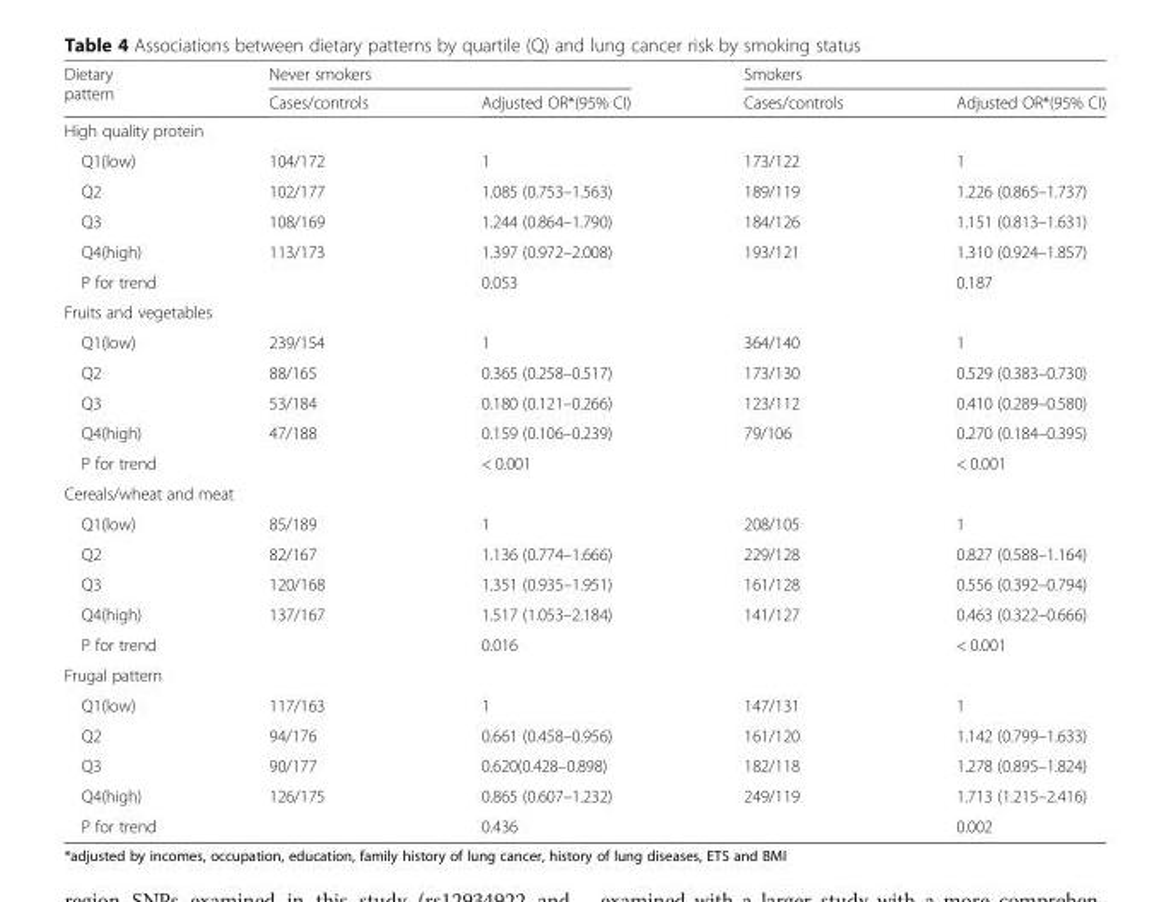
<table><thead><tr><td rowspan="2">Dietary pattern</td><td colspan="2">Never smokers</td><td colspan="2">Smokers</td></tr><tr><td>Cases/controls</td><td>Adjusted OR*(95% CI)</td><td>Cases/controls</td><td>Adjusted OR*(95% CI)</td></tr></thead><tbody><tr><td colspan="5">High quality protein</td></tr><tr><td>Q1(low)</td><td>104/172</td><td>1</td><td>173/122</td><td>1</td></tr><tr><td>Q2</td><td>102/177</td><td>1.085 (0.753–1.563)</td><td>189/119</td><td>1.226 (0.865–1.737)</td></tr><tr><td>Q3</td><td>108/169</td><td>1.244 (0.864–1.790)</td><td>184/126</td><td>1.151 (0.813–1.631)</td></tr><tr><td>Q4(high)</td><td>113/173</td><td>1.397 (0.972–2.008)</td><td>193/121</td><td>1.310 (0.924–1.857)</td></tr><tr><td>P for trend</td><td></td><td>0.053</td><td></td><td>0.187</td></tr><tr><td colspan="5">Fruits and vegetables</td></tr><tr><td>Q1(low)</td><td>239/154</td><td>1</td><td>364/140</td><td>1</td></tr><tr><td>Q2</td><td>88/165</td><td>0.365 (0.258–0.517)</td><td>173/130</td><td>0.529 (0.383–0.730)</td></tr><tr><td>Q3</td><td>53/184</td><td>0.180 (0.121–0.266)</td><td>123/112</td><td>0.410 (0.289–0.580)</td></tr><tr><td>Q4(high)</td><td>47/188</td><td>0.159 (0.106–0.239)</td><td>79/106</td><td>0.270 (0.184–0.395)</td></tr><tr><td>P for trend</td><td></td><td>&lt; 0.001</td><td></td><td>&lt; 0.001</td></tr><tr><td colspan="5">Cereals/wheat and meat</td></tr><tr><td>Q1(low)</td><td>85/189</td><td>1</td><td>208/105</td><td>1</td></tr><tr><td>Q2</td><td>82/167</td><td>1.136 (0.774–1.666)</td><td>229/128</td><td>0.827 (0.588–1.164)</td></tr><tr><td>Q3</td><td>120/168</td><td>1.351 (0.935–1.951)</td><td>161/128</td><td>0.556 (0.392–0.794)</td></tr><tr><td>Q4(high)</td><td>137/167</td><td>1.517 (1.053–2.184)</td><td>141/127</td><td>0.463 (0.322–0.666)</td></tr><tr><td>P for trend</td><td></td><td>0.016</td><td></td><td>&lt; 0.001</td></tr><tr><td colspan="5">Frugal pattern</td></tr><tr><td>Q1(low)</td><td>117/163</td><td>1</td><td>147/131</td><td>1</td></tr><tr><td>Q2</td><td>94/176</td><td>0.661 (0.458–0.956)</td><td>161/120</td><td>1.142 (0.799–1.633)</td></tr><tr><td>Q3</td><td>90/177</td><td>0.620(0.428–0.898)</td><td>182/118</td><td>1.278 (0.895–1.824)</td></tr><tr><td>Q4(high)</td><td>126/175</td><td>0.865 (0.607–1.232)</td><td>249/119</td><td>1.713 (1.215–2.416)</td></tr><tr><td>P for trend</td><td></td><td>0.436</td><td></td><td>0.002</td></tr></tbody></table>